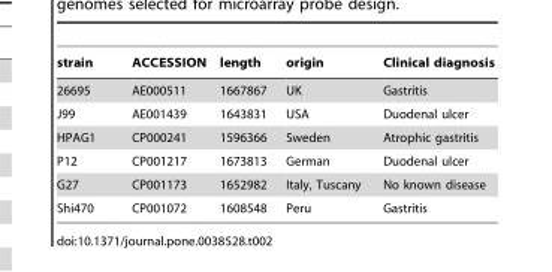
<table><thead><tr><td>strain</td><td>ACCESSION</td><td>length</td><td>origin</td><td>Clinical diagnosis</td></tr></thead><tbody><tr><td>26695</td><td>AE000511</td><td>1667867</td><td>UK</td><td>Gastritis</td></tr><tr><td>J99</td><td>AE001439</td><td>1643831</td><td>USA</td><td>Duodenal ulcer</td></tr><tr><td>HPAG1</td><td>CP000241</td><td>1596366</td><td>Sweden</td><td>Atrophic gastritis</td></tr><tr><td>P12</td><td>CP001217</td><td>1673813</td><td>German</td><td>Duodenal ulcer</td></tr><tr><td>G27</td><td>CP001173</td><td>1652982</td><td>Italy, Tuscany</td><td>No known disease</td></tr><tr><td>Shi470</td><td>CP001072</td><td>1608548</td><td>Peru</td><td>Gastritis</td></tr></tbody></table>